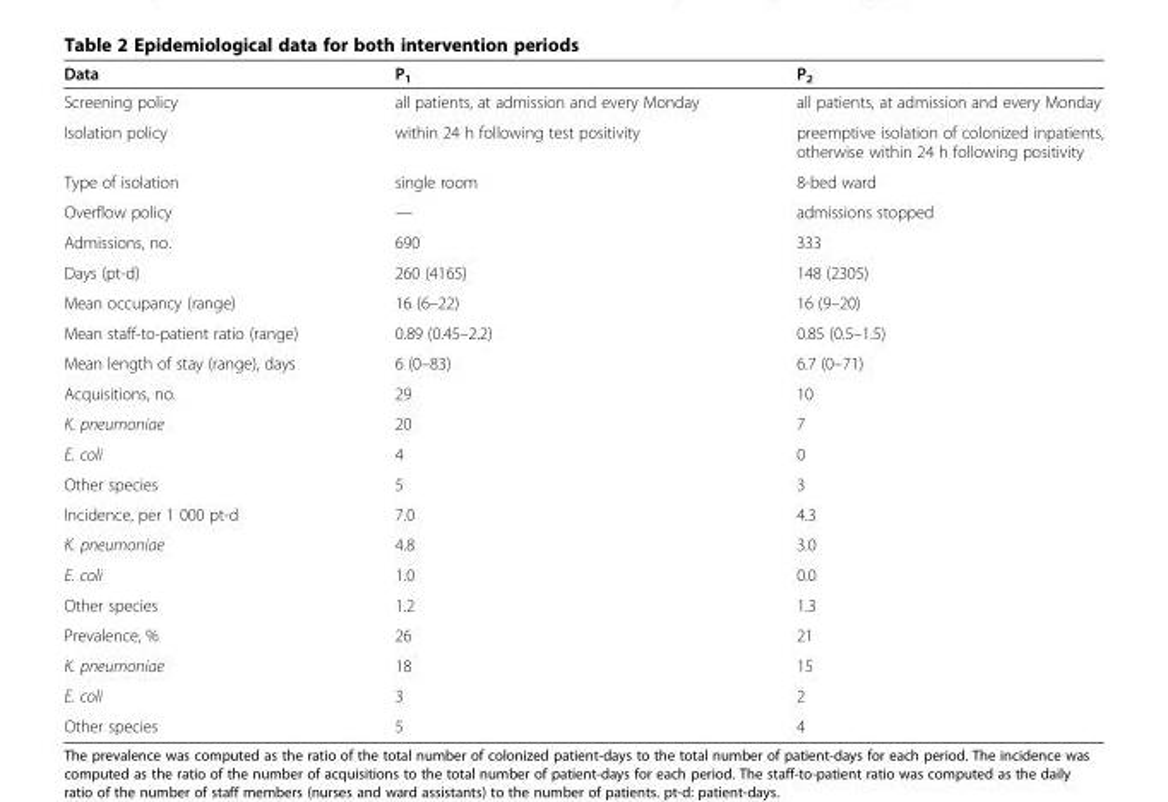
<table><thead><tr><td>Data</td><td>P<sub>1</sub></td><td>P<sub>2</sub></td></tr></thead><tbody><tr><td>Screening policy</td><td>all patients, at admission and every Monday</td><td>all patients, at admission and every Monday</td></tr><tr><td>Isolation policy</td><td>within 24 h following test positivity</td><td>preemptive isolation of colonized inpatients, otherwise within 24 h following positivity</td></tr><tr><td>Type of isolation</td><td>single room</td><td>8-bed ward</td></tr><tr><td>Overflow policy</td><td>—</td><td>admissions stopped</td></tr><tr><td>Admissions, no.</td><td>690</td><td>333</td></tr><tr><td>Days (pt-d)</td><td>260 (4165)</td><td>148 (2305)</td></tr><tr><td>Mean occupancy (range)</td><td>16 (6–22)</td><td>16 (9–20)</td></tr><tr><td>Mean staff-to-patient ratio (range)</td><td>0.89 (0.45–2.2)</td><td>0.85 (0.5–1.5)</td></tr><tr><td>Mean length of stay (range), days</td><td>6 (0–83)</td><td>6.7 (0–71)</td></tr><tr><td>Acquisitions, no.</td><td>29</td><td>10</td></tr><tr><td>K. pneumoniae</td><td>20</td><td>7</td></tr><tr><td>E. coli</td><td>4</td><td>0</td></tr><tr><td>Other species</td><td>5</td><td>3</td></tr><tr><td>Incidence, per 1 000 pt-d</td><td>7.0</td><td>4.3</td></tr><tr><td>K. pneumoniae</td><td>4.8</td><td>3.0</td></tr><tr><td>E. coli</td><td>1.0</td><td>0.0</td></tr><tr><td>Other species</td><td>1.2</td><td>1.3</td></tr><tr><td>Prevalence, %</td><td>26</td><td>21</td></tr><tr><td>K. pneumoniae</td><td>18</td><td>15</td></tr><tr><td>E. coli</td><td>3</td><td>2</td></tr><tr><td>Other species</td><td>5</td><td>4</td></tr></tbody></table>